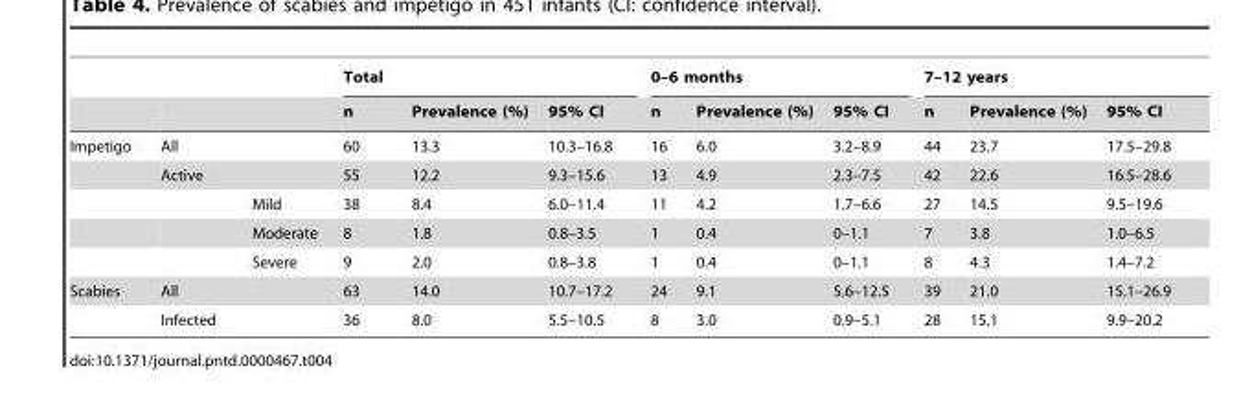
<table><thead><tr><td rowspan="2"></td><td rowspan="2"></td><td rowspan="2"></td><td colspan="3">Total</td><td colspan="3">0–6 months</td><td colspan="3">7–12 years</td></tr><tr><td>n</td><td>Prevalence (%)</td><td>95% CI</td><td>n</td><td>Prevalence (%)</td><td>95% CI</td><td>n</td><td>Prevalence (%)</td><td>95% CI</td></tr></thead><tbody><tr><td rowspan="5">Impetigo</td><td>All</td><td></td><td>60</td><td>13.3</td><td>10.3–16.8</td><td>16</td><td>6.0</td><td>3.2–8.9</td><td>44</td><td>23.7</td><td>17.5–29.8</td></tr><tr><td>Active</td><td></td><td>55</td><td>12.2</td><td>9.3–15.6</td><td>13</td><td>4.9</td><td>2.3–7.5</td><td>42</td><td>22.6</td><td>16.5–28.6</td></tr><tr><td></td><td>Mild</td><td>38</td><td>8.4</td><td>6.0–11.4</td><td>11</td><td>4.2</td><td>1.7–6.6</td><td>27</td><td>14.5</td><td>9.5–19.6</td></tr><tr><td></td><td>Moderate</td><td>8</td><td>1.8</td><td>0.8–3.5</td><td>1</td><td>0.4</td><td>0–1.1</td><td>7</td><td>3.8</td><td>1.0–6.5</td></tr><tr><td></td><td>Severe</td><td>9</td><td>2.0</td><td>0.8–3.8</td><td>1</td><td>0.4</td><td>0–1.1</td><td>8</td><td>4.3</td><td>1.4–7.2</td></tr><tr><td rowspan="2">Scabies</td><td>All</td><td></td><td>63</td><td>14.0</td><td>10.7–17.2</td><td>24</td><td>9.1</td><td>5.6–12.5</td><td>39</td><td>21.0</td><td>15.1–26.9</td></tr><tr><td>Infected</td><td></td><td>36</td><td>8.0</td><td>5.5–10.5</td><td>8</td><td>3.0</td><td>0.9–5.1</td><td>28</td><td>15.1</td><td>9.9–20.2</td></tr></tbody></table>